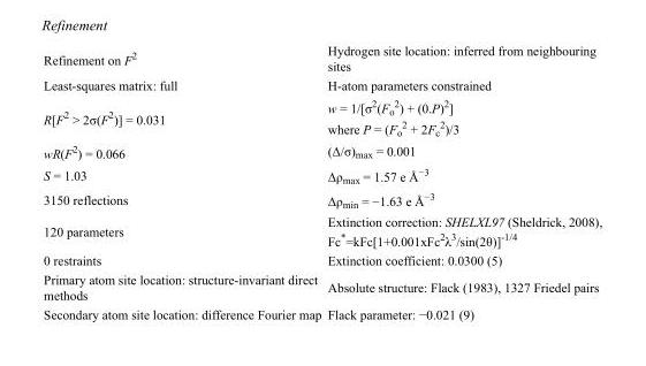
<table><tbody><tr><td>Refinement on F<sup>2</sup></td><td>Hydrogen site location: inferred from neighbouring sites</td></tr><tr><td>Least-squares matrix: full</td><td>H-atom parameters constrained</td></tr><tr><td>R[F<sup>2</sup> &gt; 2σ(F<sup>2</sup>)] = 0.031</td><td>w = 1/[σ<sup>2</sup>(F<sub>o</sub> <sup>2</sup>) + (0.P)<sup>2</sup>] where P = (F<sub>o</sub> <sup>2</sup> + 2F<sub>c</sub> <sup>2</sup>)/3</td></tr><tr><td>wR(F<sup>2</sup>) = 0.066</td><td>(Δ/σ)<sub>max</sub> = 0.001</td></tr><tr><td>S = 1.03</td><td>Δρ<sub>max</sub> = 1.57 e Å<sup>−3</sup></td></tr><tr><td>3150 reflections</td><td>Δρ<sub>min</sub> = −1.63 e Å<sup>−3</sup></td></tr><tr><td>120 parameters</td><td>Extinction correction: SHELXL97 (Sheldrick, 2008), Fc*=kFc[1+0.001xFc<sup>2</sup>λ<sup>3</sup>/sin(2θ)]<sup>-1/4</sup></td></tr><tr><td>0 restraints</td><td>Extinction coefficient: 0.0300 (5)</td></tr><tr><td>Primary atom site location: structure-invariant direct methods</td><td>Absolute structure: Flack (1983), 1327 Friedel pairs</td></tr><tr><td>Secondary atom site location: difference Fourier map</td><td>Flack parameter: −0.021 (9)</td></tr></tbody></table>